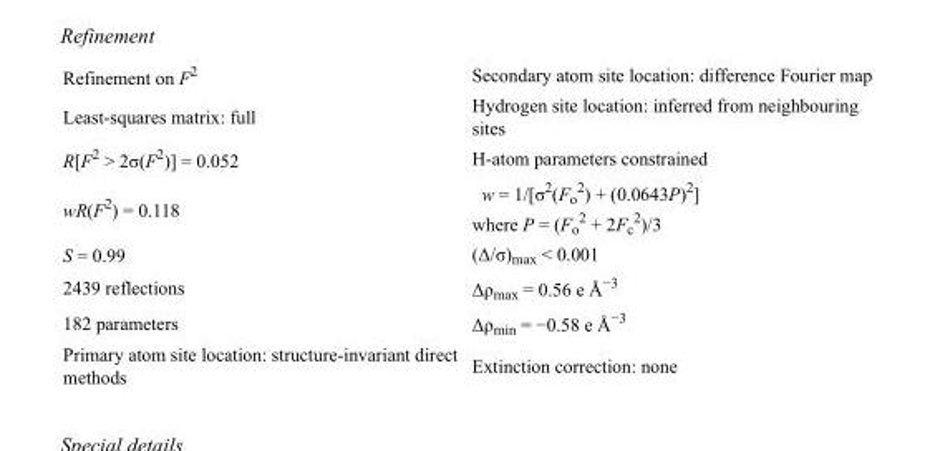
<table><tbody><tr><td>Refinement on F<sup>2</sup></td><td>Secondary atom site location: difference Fourier map</td></tr><tr><td>Least-squares matrix: full</td><td>Hydrogen site location: inferred from neighbouring sites</td></tr><tr><td>R[F<sup>2</sup> &gt; 2σ(F<sup>2</sup>)] = 0.052</td><td>H-atom parameters constrained</td></tr><tr><td>wR(F<sup>2</sup>) = 0.118</td><td>w = 1/[σ<sup>2</sup>(F<sub>o</sub> <sup>2</sup>) + (0.0643P)<sup>2</sup>] where P = (F<sub>o</sub> <sup>2</sup> + 2F<sub>c</sub> <sup>2</sup>)/3</td></tr><tr><td>S = 0.99</td><td>(Δ/σ)<sub>max</sub> &lt; 0.001</td></tr><tr><td>2439 reflections</td><td>Δρ<sub>max</sub> = 0.56 e Å<sup>−3</sup></td></tr><tr><td>182 parameters</td><td>Δρ<sub>min</sub> = −0.58 e Å<sup>−3</sup></td></tr><tr><td>Primary atom site location: structure-invariant direct methods</td><td>Extinction correction: none</td></tr></tbody></table>